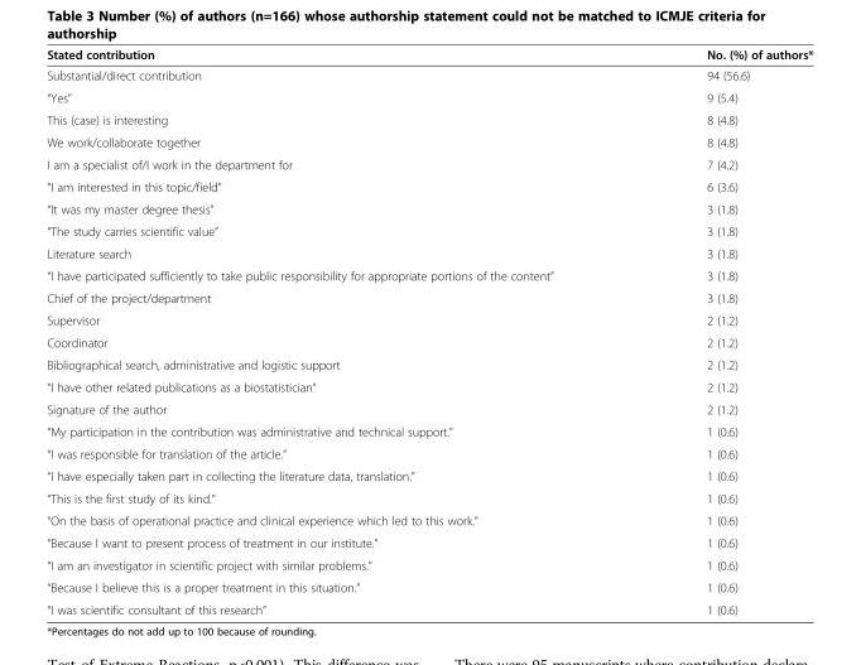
<table><thead><tr><td>Stated contribution</td><td>No. (%) of authors*</td></tr></thead><tbody><tr><td>Substantial/direct contribution</td><td>94 (56.6)</td></tr><tr><td>“Yes”</td><td>9 (5.4)</td></tr><tr><td>This (case) is interesting</td><td>8 (4.8)</td></tr><tr><td>We work/collaborate together</td><td>8 (4.8)</td></tr><tr><td>I am a specialist of/I work in the department for</td><td>7 (4.2)</td></tr><tr><td>“I am interested in this topic/field”</td><td>6 (3.6)</td></tr><tr><td>“It was my master degree thesis”</td><td>3 (1.8)</td></tr><tr><td>“The study carries scientific value”</td><td>3 (1.8)</td></tr><tr><td>Literature search</td><td>3 (1.8)</td></tr><tr><td>“I have participated sufficiently to take public responsibility for appropriate portions of the content”</td><td>3 (1.8)</td></tr><tr><td>Chief of the project/department</td><td>3 (1.8)</td></tr><tr><td>Supervisor</td><td>2 (1.2)</td></tr><tr><td>Coordinator</td><td>2 (1.2)</td></tr><tr><td>Bibliographical search, administrative and logistic support</td><td>2 (1.2)</td></tr><tr><td>“I have other related publications as a biostatistician“</td><td>2 (1.2)</td></tr><tr><td>Signature of the author</td><td>2 (1.2)</td></tr><tr><td>“My participation in the contribution was administrative and technical support.”</td><td>1 (0.6)</td></tr><tr><td>“I was responsible for translation of the article.”</td><td>1 (0.6)</td></tr><tr><td>“I have especially taken part in collecting the literature data, translation.”</td><td>1 (0.6)</td></tr><tr><td>“This is the first study of its kind.”</td><td>1 (0.6)</td></tr><tr><td>“On the basis of operational practice and clinical experience which led to this work.”</td><td>1 (0.6)</td></tr><tr><td>“Because I want to present process of treatment in our institute.”</td><td>1 (0.6)</td></tr><tr><td>“I am an investigator in scientific project with similar problems.”</td><td>1 (0.6)</td></tr><tr><td>“Because I believe this is a proper treatment in this situation.”</td><td>1 (0.6)</td></tr><tr><td>“I was scientific consultant of this research”</td><td>1 (0.6)</td></tr></tbody></table>